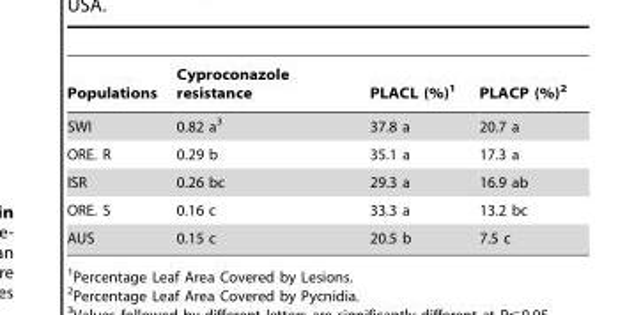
<table><thead><tr><td>Populations</td><td>Cyproconazole resistance</td><td>PLACL (%)<sup>1</sup></td><td>PLACP (%)<sup>2</sup></td></tr></thead><tbody><tr><td>SWI</td><td>0.82 a<sup>3</sup></td><td>37.8 a</td><td>20.7 a</td></tr><tr><td>ORE. R</td><td>0.29 b</td><td>35.1 a</td><td>17.3 a</td></tr><tr><td>ISR</td><td>0.26 bc</td><td>29.3 a</td><td>16.9 ab</td></tr><tr><td>ORE. S</td><td>0.16 c</td><td>33.3 a</td><td>13.2 bc</td></tr><tr><td>AUS</td><td>0.15 c</td><td>20.5 b</td><td>7.5 c</td></tr></tbody></table>